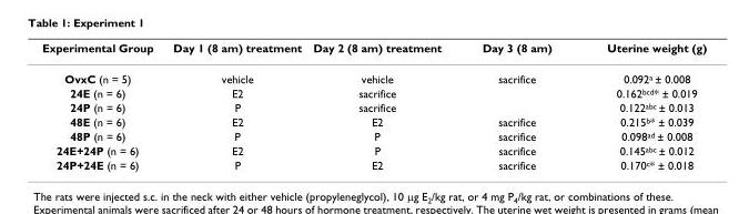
<table><thead><tr><td>Experimental Group</td><td>Day 1 (8 am) treatment</td><td>Day 2 (8 am) treatment</td><td>Day 3 (8 am)</td><td>Uterine weight (g)</td></tr></thead><tbody><tr><td>OvxC (n = 5)</td><td>vehicle</td><td>vehicle</td><td>sacrifice</td><td>0.092<sup>a</sup> ± 0.008</td></tr><tr><td>24E (n = 6)</td><td>E2</td><td>sacrifice</td><td></td><td>0.162<sup>bcd</sup>* ± 0.019</td></tr><tr><td>24P (n = 6)</td><td>P</td><td>sacrifice</td><td></td><td>0.122<sup>abc</sup> ± 0.013</td></tr><tr><td>48E (n = 6)</td><td>E2</td><td>E2</td><td>sacrifice</td><td>0.215<sup>b</sup>* ± 0.039</td></tr><tr><td>48P (n = 6)</td><td>P</td><td>P</td><td>sacrifice</td><td>0.098<sup>ad</sup> ± 0.008</td></tr><tr><td>24E+24P (n = 6)</td><td>E2</td><td>P</td><td>sacrifice</td><td>0.145<sup>abc</sup> ± 0.012</td></tr><tr><td>24P+24E (n = 6)</td><td>P</td><td>E2</td><td>sacrifice</td><td>0.170<sup>c</sup>* ± 0.018</td></tr></tbody></table>